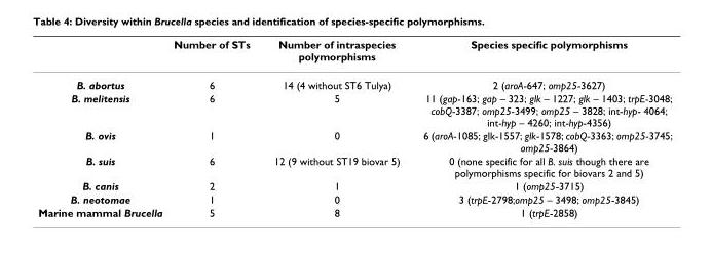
<table><thead><tr><td></td><td>Number of STs</td><td>Number of intraspecies polymorphisms</td><td>Species specific polymorphisms</td></tr></thead><tbody><tr><td>B. abortus</td><td>6</td><td>14 (4 without ST6 Tulya)</td><td>2 (aroA-647; omp25-3627)</td></tr><tr><td>B. melitensis</td><td>6</td><td>5</td><td>11 (gap-163; gap – 323; glk – 1227; glk – 1403; trpE-3048; cobQ-3387; omp25-3499; omp25 – 3828; int-hyp- 4064; int-hyp – 4260; int-hyp-4356)</td></tr><tr><td>B. ovis</td><td>1</td><td>0</td><td>6 (aroA-1085; glk-1557; glk-1578; cobQ-3363; omp25-3745; omp25-3864)</td></tr><tr><td>B. suis</td><td>6</td><td>12 (9 without ST19 biovar 5)</td><td>0 (none specific for all B. suis though there are polymorphisms specific for biovars 2 and 5)</td></tr><tr><td>B. canis</td><td>2</td><td>1</td><td>1 (omp25-3715)</td></tr><tr><td>B. neotomae</td><td>1</td><td>0</td><td>3 (trpE-2798;omp25 – 3498; omp25-3845)</td></tr><tr><td>Marine mammal Brucella</td><td>5</td><td>8</td><td>1 (trpE-2858)</td></tr></tbody></table>